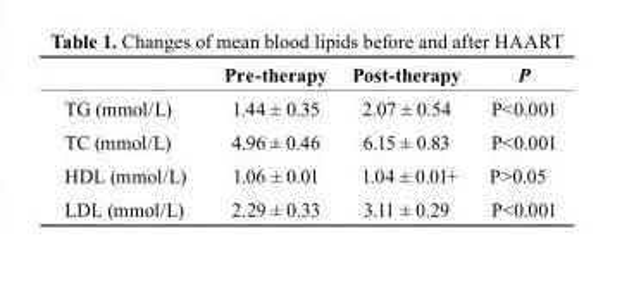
<table><thead><tr><td></td><td>Pre-therapy</td><td>Post-therapy</td><td>P</td></tr></thead><tbody><tr><td>TG (mmol/L)</td><td>1.44 ± 0.35</td><td>2.07 ± 0.54</td><td>P&lt;0.001</td></tr><tr><td>TC (mmol/L)</td><td>4.96 ± 0.46</td><td>6.15 ± 0.83</td><td>P&lt;0.001</td></tr><tr><td>HDL (mmol/L)</td><td>1.06 ± 0.01</td><td>1.04 ± 0.01+</td><td>P&gt;0.05</td></tr><tr><td>LDL (mmol/L)</td><td>2.29 ± 0.33</td><td>3.11 ± 0.29</td><td>P&lt;0.001</td></tr></tbody></table>